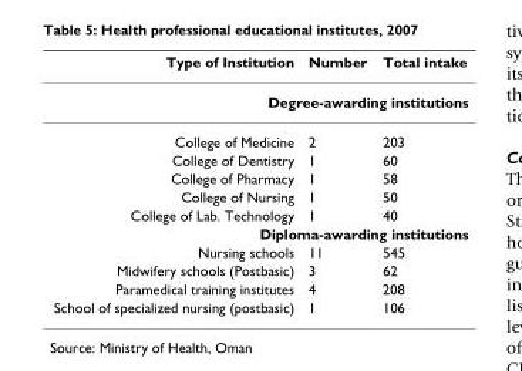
<table><thead><tr><td>Type of Institution</td><td>Number</td><td>Total intake</td></tr></thead><tbody><tr><td colspan="3">Degree-awarding institutions</td></tr><tr><td>College of Medicine</td><td>2</td><td>203</td></tr><tr><td>College of Dentistry</td><td>1</td><td>60</td></tr><tr><td>College of Pharmacy</td><td>1</td><td>58</td></tr><tr><td>College of Nursing</td><td>1</td><td>50</td></tr><tr><td>College of Lab. Technology</td><td>1</td><td>40</td></tr><tr><td colspan="3">Diploma-awarding institutions</td></tr><tr><td>Nursing schools</td><td>11</td><td>545</td></tr><tr><td>Midwifery schools (Postbasic)</td><td>3</td><td>62</td></tr><tr><td>Paramedical training institutes</td><td>4</td><td>208</td></tr><tr><td>School of specialized nursing (postbasic)</td><td>1</td><td>106</td></tr></tbody></table>